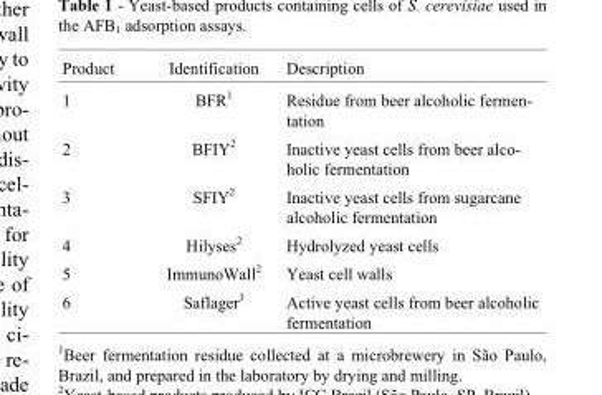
<table><thead><tr><td>Product</td><td>Identification</td><td>Description</td></tr></thead><tbody><tr><td>1</td><td>BFR<sup>1</sup></td><td>Residue from beer alcoholic fermen- tation</td></tr><tr><td>2</td><td>BFIY<sup>2</sup></td><td>Inactive yeast cells from beer alco- holic fermentation</td></tr><tr><td>3</td><td>SFIY<sup>2</sup></td><td>Inactive yeast cells from sugarcane alcoholic fermentation</td></tr><tr><td>4</td><td>Hilyses<sup>2</sup></td><td>Hydrolyzed yeast cells</td></tr><tr><td>5</td><td>ImmunoWall<sup>2</sup></td><td>Yeast cell walls</td></tr><tr><td>6</td><td>Saflager<sup>3</sup></td><td>Active yeast cells from beer alcoholic fermentation</td></tr></tbody></table>